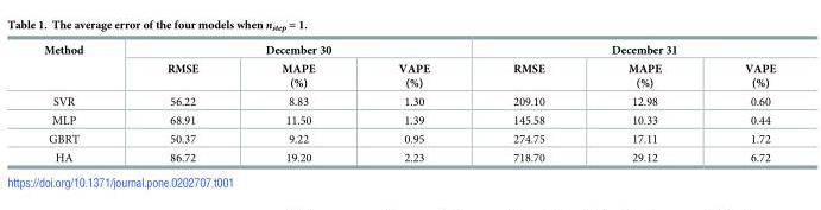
<table><thead><tr><td rowspan="2">Method</td><td colspan="3">December 30</td><td colspan="3">December 31</td></tr><tr><td>RMSE</td><td>MAPE (%)</td><td>VAPE (%)</td><td>RMSE</td><td>MAPE (%)</td><td>VAPE (%)</td></tr></thead><tbody><tr><td>SVR</td><td>56.22</td><td>8.83</td><td>1.30</td><td>209.10</td><td>12.98</td><td>0.60</td></tr><tr><td>MLP</td><td>68.91</td><td>11.50</td><td>1.39</td><td>145.58</td><td>10.33</td><td>0.44</td></tr><tr><td>GBRT</td><td>50.37</td><td>9.22</td><td>0.95</td><td>274.75</td><td>17.11</td><td>1.72</td></tr><tr><td>HA</td><td>86.72</td><td>19.20</td><td>2.23</td><td>718.70</td><td>29.12</td><td>6.72</td></tr></tbody></table>